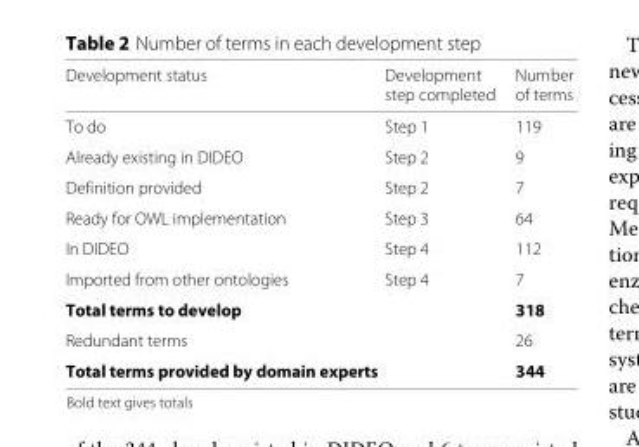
<table><thead><tr><td>Development status</td><td>Development step completed</td><td>Number of terms</td></tr></thead><tbody><tr><td>To do</td><td>Step 1</td><td>119</td></tr><tr><td>Already existing in DIDEO</td><td>Step 2</td><td>9</td></tr><tr><td>Definition provided</td><td>Step 2</td><td>7</td></tr><tr><td>Ready for OWL implementation</td><td>Step 3</td><td>64</td></tr><tr><td>In DIDEO</td><td>Step 4</td><td>112</td></tr><tr><td>Imported from other ontologies</td><td>Step 4</td><td>7</td></tr><tr><td>Total terms to develop</td><td></td><td>318</td></tr><tr><td>Redundant terms</td><td></td><td>26</td></tr><tr><td>Total terms provided by domain experts</td><td></td><td>344</td></tr></tbody></table>